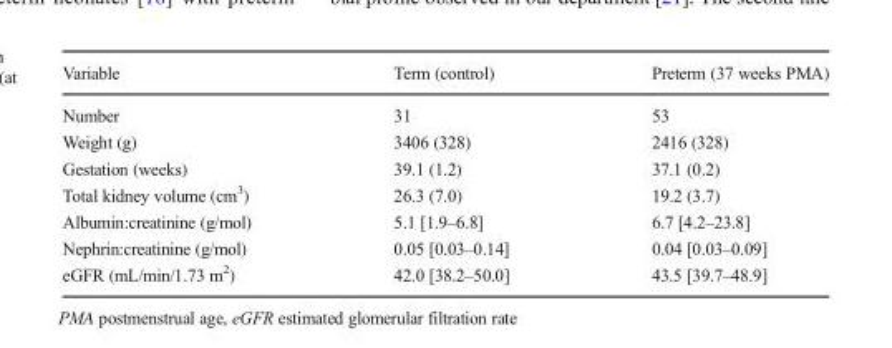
<table><thead><tr><td>Variable</td><td>Term (control)</td><td>Preterm (37 weeks PMA)</td></tr></thead><tbody><tr><td>Number</td><td>31</td><td>53</td></tr><tr><td>Weight (g)</td><td>3406 (328)</td><td>2416 (328)</td></tr><tr><td>Gestation (weeks)</td><td>39.1 (1.2)</td><td>37.1 (0.2)</td></tr><tr><td>Total kidney volume (cm<sup>3</sup>)</td><td>26.3 (7.0)</td><td>19.2 (3.7)</td></tr><tr><td>Albumin:creatinine (g/mol)</td><td>5.1 [1.9–6.8]</td><td>6.7 [4.2–23.8]</td></tr><tr><td>Nephrin:creatinine (g/mol)</td><td>0.05 [0.03–0.14]</td><td>0.04 [0.03–0.09]</td></tr><tr><td>eGFR (mL/min/1.73 m<sup>2</sup>)</td><td>42.0 [38.2–50.0]</td><td>43.5 [39.7–48.9]</td></tr></tbody></table>